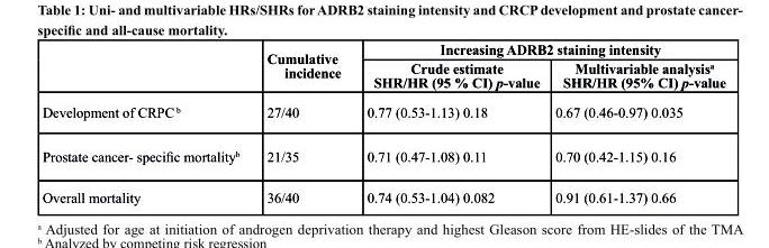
<table><thead><tr><td rowspan="2"></td><td rowspan="2">cumulative incidence</td><td colspan="2">Increasing Adrb2 staining intensity</td></tr><tr><td>crude estimate sHr/Hr (95 % cI) p-value</td><td>Multivariable analysis<sup>a</sup> sHr/Hr (95% cI) p-value</td></tr></thead><tbody><tr><td>Development of CRPC <sup>b</sup></td><td>27/40</td><td>0.77 (0.53-1.13) 0.18</td><td>0.67 (0.46-0.97) 0.035</td></tr><tr><td>Prostate cancer- specific mortality<sup>b</sup></td><td>21/35</td><td>0.71 (0.47-1.08) 0.11</td><td>0.70 (0.42-1.15) 0.16</td></tr><tr><td>Overall mortality</td><td>36/40</td><td>0.74 (0.53-1.04) 0.082</td><td>0.91 (0.61-1.37) 0.66</td></tr></tbody></table>